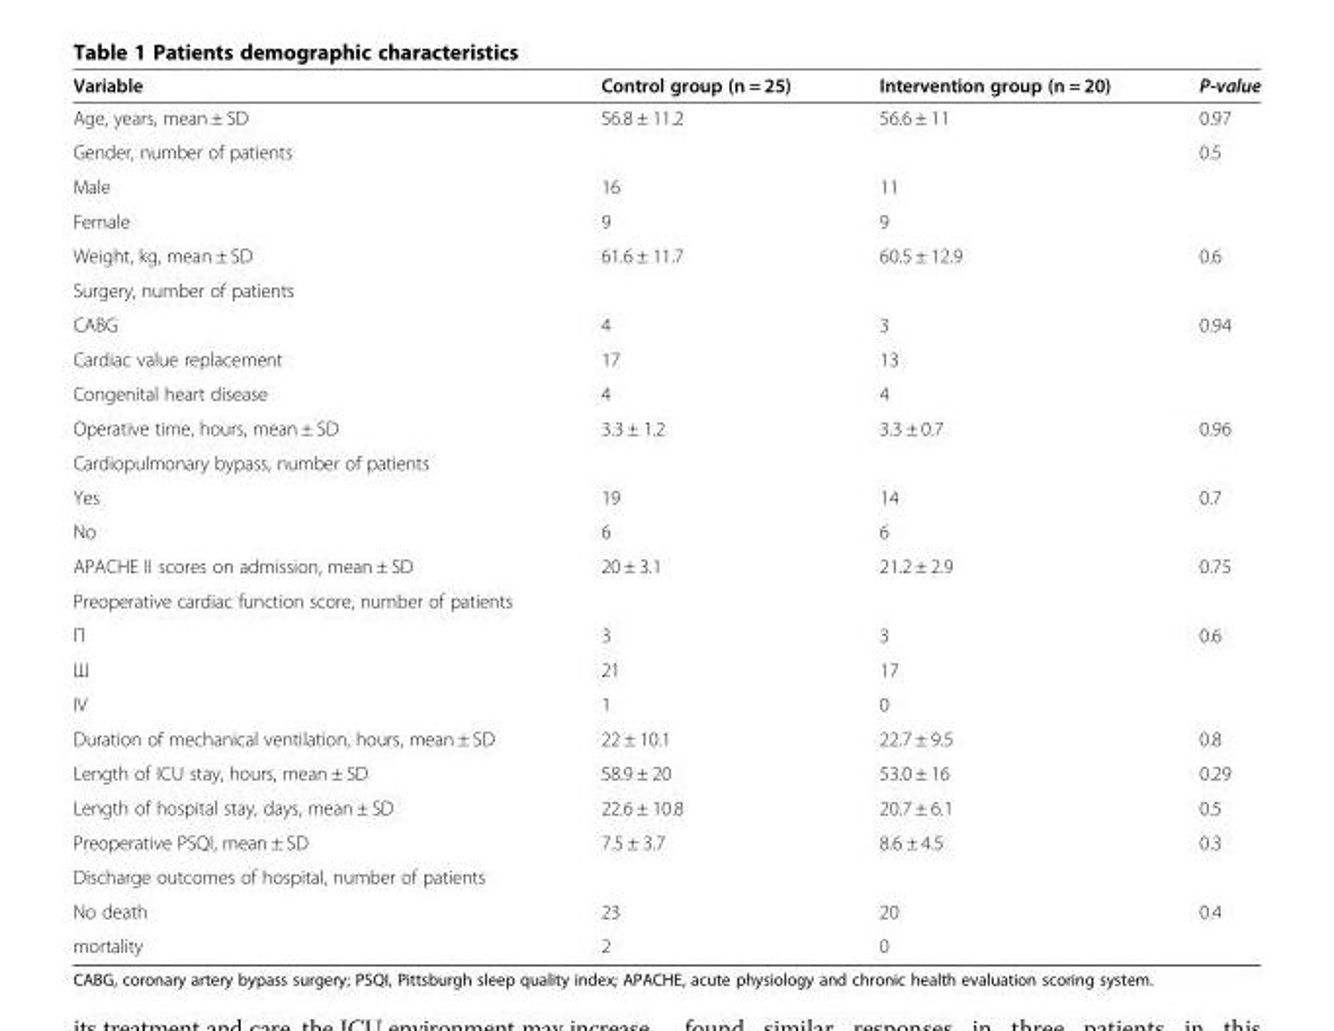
<table><thead><tr><td>Variable</td><td>Control group (n = 25)</td><td>Intervention group (n = 20)</td><td>P-value</td></tr></thead><tbody><tr><td>Age, years, mean ± SD</td><td>56.8 ± 11.2</td><td>56.6 ± 11</td><td>0.97</td></tr><tr><td>Gender, number of patients</td><td></td><td></td><td>0.5</td></tr><tr><td>Male</td><td>16</td><td>11</td><td></td></tr><tr><td>Female</td><td>9</td><td>9</td><td></td></tr><tr><td>Weight, kg, mean ± SD</td><td>61.6 ± 11.7</td><td>60.5 ± 12.9</td><td>0.6</td></tr><tr><td colspan="4">Surgery, number of patients</td></tr><tr><td>CABG</td><td>4</td><td>3</td><td>0.94</td></tr><tr><td>Cardiac value replacement</td><td>17</td><td>13</td><td></td></tr><tr><td>Congenital heart disease</td><td>4</td><td>4</td><td></td></tr><tr><td>Operative time, hours, mean ± SD</td><td>3.3 ± 1.2</td><td>3.3 ± 0.7</td><td>0.96</td></tr><tr><td colspan="4">Cardiopulmonary bypass, number of patients</td></tr><tr><td>Yes</td><td>19</td><td>14</td><td>0.7</td></tr><tr><td>No</td><td>6</td><td>6</td><td></td></tr><tr><td>APACHE II scores on admission, mean ± SD</td><td>20 ± 3.1</td><td>21.2 ± 2.9</td><td>0.75</td></tr><tr><td colspan="4">Preoperative cardiac function score, number of patients</td></tr><tr><td>П</td><td>3</td><td>3</td><td>0.6</td></tr><tr><td>Ш</td><td>21</td><td>17</td><td></td></tr><tr><td>IV</td><td>1</td><td>0</td><td></td></tr><tr><td>Duration of mechanical ventilation, hours, mean ± SD</td><td>22 ± 10.1</td><td>22.7 ± 9.5</td><td>0.8</td></tr><tr><td>Length of ICU stay, hours, mean ± SD</td><td>58.9 ± 20</td><td>53.0 ± 16</td><td>0.29</td></tr><tr><td>Length of hospital stay, days, mean ± SD</td><td>22.6 ± 10.8</td><td>20.7 ± 6.1</td><td>0.5</td></tr><tr><td>Preoperative PSQI, mean ± SD</td><td>7.5 ± 3.7</td><td>8.6 ± 4.5</td><td>0.3</td></tr><tr><td colspan="4">Discharge outcomes of hospital, number of patients</td></tr><tr><td>No death</td><td>23</td><td>20</td><td>0.4</td></tr><tr><td>mortality</td><td>2</td><td>0</td><td></td></tr></tbody></table>